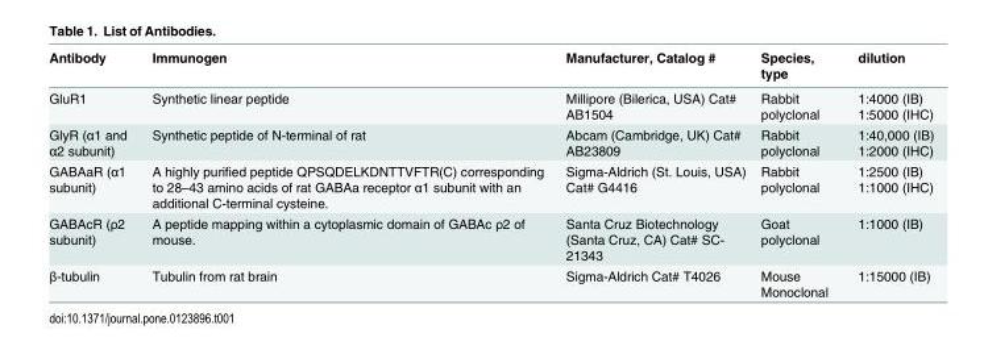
<table><thead><tr><td>Antibody</td><td>Immunogen</td><td>Manufacturer, Catalog #</td><td>Species, type</td><td>dilution</td></tr></thead><tbody><tr><td>GluR1</td><td>Synthetic linear peptide</td><td>Millipore (Bilerica, USA) Cat# AB1504</td><td>Rabbit polyclonal</td><td>1:4000 (IB) 1:5000 (IHC)</td></tr><tr><td>GlyR (α1 and α2 subunit)</td><td>Synthetic peptide of N-terminal of rat</td><td>Abcam (Cambridge, UK) Cat# AB23809</td><td>Rabbit polyclonal</td><td>1:40,000 (IB) 1:2000 (IHC)</td></tr><tr><td>GABAaR (α1 subunit)</td><td>A highly purified peptide QPSQDELKDNTTVFTR(C) corresponding to 28–43 amino acids of rat GABAa receptor α1 subunit with an additional C-terminal cysteine.</td><td>Sigma-Aldrich (St. Louis, USA) Cat# G4416</td><td>Rabbit polyclonal</td><td>1:2500 (IB) 1:1000 (IHC)</td></tr><tr><td>GABAcR (ρ2 subunit)</td><td>A peptide mapping within a cytoplasmic domain of GABAc ρ2 of mouse.</td><td>Santa Cruz Biotechnology (Santa Cruz, CA) Cat# SC- 21343</td><td>Goat polyclonal</td><td>1:1000 (IB)</td></tr><tr><td>β-tubulin</td><td>Tubulin from rat brain</td><td>Sigma-Aldrich Cat# T4026</td><td>Mouse Monoclonal</td><td>1:15000 (IB)</td></tr></tbody></table>